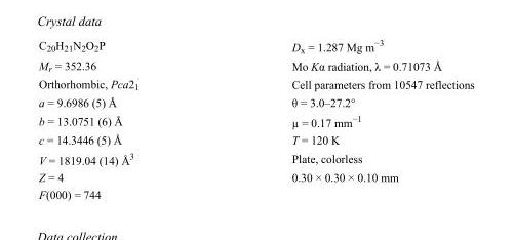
<table><tbody><tr><td>C<sub>20</sub>H<sub>21</sub>N<sub>2</sub>O<sub>2</sub>P</td><td>D<sub>x</sub> = 1.287 Mg m<sup>−3</sup></td></tr><tr><td>M<sub>r</sub> = 352.36</td><td>Mo Kα radiation, λ = 0.71073 Å</td></tr><tr><td>Orthorhombic, Pca2<sub>1</sub></td><td>Cell parameters from 10547 reflections</td></tr><tr><td>a = 9.6986 (5) Å</td><td>θ = 3.0–27.2°</td></tr><tr><td>b = 13.0751 (6) Å</td><td>µ = 0.17 mm<sup>−1</sup></td></tr><tr><td>c = 14.3446 (5) Å</td><td>T = 120 K</td></tr><tr><td>V = 1819.04 (14) Å<sup>3</sup></td><td>Plate, colorless</td></tr><tr><td>Z = 4</td><td>0.30 × 0.30 × 0.10 mm</td></tr><tr><td>F(000) = 744</td><td></td></tr></tbody></table>